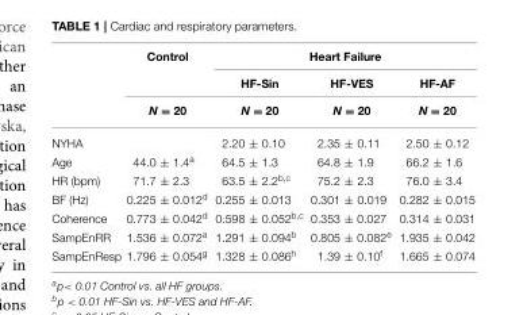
<table><thead><tr><td rowspan="3"></td><td rowspan="3">Control N = 20</td><td colspan="3">Heart Failure</td></tr><tr><td rowspan="2">HF-Sin N = 20</td><td rowspan="2">HF-VES N = 20</td><td rowspan="2">HF-AF N = 20</td></tr><tr></tr></thead><tbody><tr><td>NYHA</td><td></td><td>2.20 ± 0.10</td><td>2.35 ± 0.11</td><td>2.50 ± 0.12</td></tr><tr><td>Age</td><td>44.0 ± 1.4<sup>a</sup></td><td>64.5 ± 1.3</td><td>64.8 ± 1.9</td><td>66.2 ± 1.6</td></tr><tr><td>HR (bpm)</td><td>71.7 ± 2.3</td><td>63.5 ± 2.2<sup>b,c</sup></td><td>75.2 ± 2.3</td><td>76.0 ± 3.4</td></tr><tr><td>BF (Hz)</td><td>0.225 ± 0.012<sup>d</sup></td><td>0.255 ± 0.013</td><td>0.301 ± 0.019</td><td>0.282 ± 0.015</td></tr><tr><td>Coherence</td><td>0.773 ± 0.042<sup>d</sup></td><td>0.598 ± 0.052<sup>b,c</sup></td><td>0.353 ± 0.027</td><td>0.314 ± 0.031</td></tr><tr><td>SampEnRR</td><td>1.536 ± 0.072<sup>a</sup></td><td>1.291 ± 0.094<sup>b</sup></td><td>0.805 ± 0.082<sup>e</sup></td><td>1.935 ± 0.042</td></tr><tr><td>SampEnResp</td><td>1.796 ± 0.054<sup>g</sup></td><td>1.328 ± 0.086<sup>h</sup></td><td>1.39 ± 0.10<sup>f</sup></td><td>1.665 ± 0.074</td></tr></tbody></table>